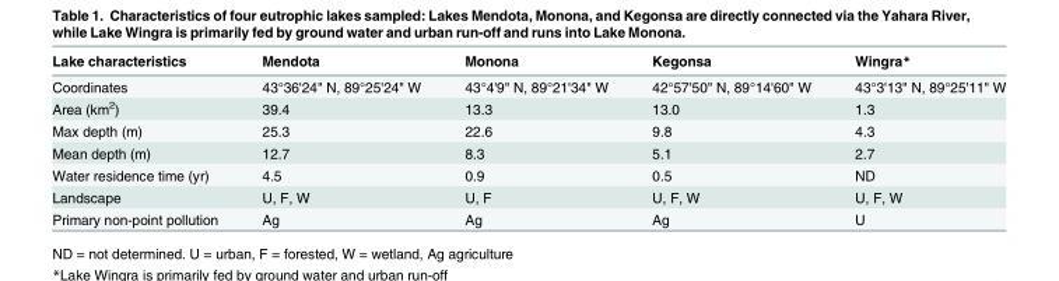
<table><thead><tr><td>Lake characteristics</td><td>Mendota</td><td>Monona</td><td>Kegonsa</td><td>Wingra*</td></tr></thead><tbody><tr><td>Coordinates</td><td>43°36&#x27;24&quot; N, 89°25&#x27;24&quot; W</td><td>43°4&#x27;9&quot; N, 89°21&#x27;34&quot; W</td><td>42°57&#x27;50&quot; N, 89°14&#x27;60&quot; W</td><td>43°3&#x27;13&quot; N, 89°25&#x27;11&quot; W</td></tr><tr><td>Area (km<sup>2</sup>)</td><td>39.4</td><td>13.3</td><td>13.0</td><td>1.3</td></tr><tr><td>Max depth (m)</td><td>25.3</td><td>22.6</td><td>9.8</td><td>4.3</td></tr><tr><td>Mean depth (m)</td><td>12.7</td><td>8.3</td><td>5.1</td><td>2.7</td></tr><tr><td>Water residence time (yr)</td><td>4.5</td><td>0.9</td><td>0.5</td><td>ND</td></tr><tr><td>Landscape</td><td>U, F, W</td><td>U, F</td><td>U, F, W</td><td>U, F, W</td></tr><tr><td>Primary non-point pollution</td><td>Ag</td><td>Ag</td><td>Ag</td><td>U</td></tr></tbody></table>